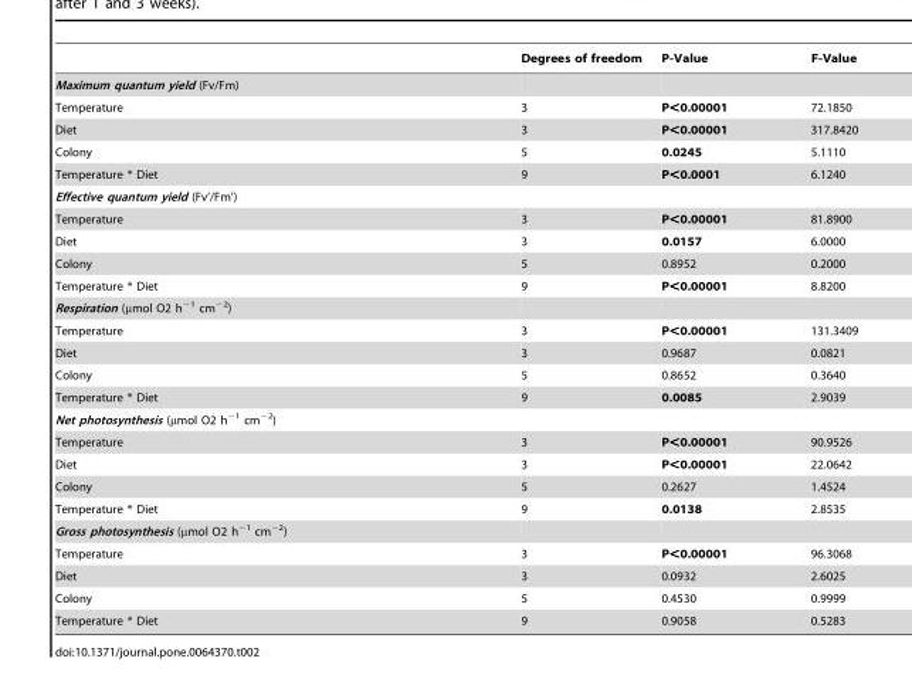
<table><thead><tr><td></td><td>Degrees of freedom</td><td>P-Value</td><td>F-Value</td></tr></thead><tbody><tr><td colspan="4">Maximum quantum yield (Fv/Fm)</td></tr><tr><td>Temperature</td><td>3</td><td>P&lt;0.00001</td><td>72.1850</td></tr><tr><td>Diet</td><td>3</td><td>P&lt;0.00001</td><td>317.8420</td></tr><tr><td>Colony</td><td>5</td><td>0.0245</td><td>5.1110</td></tr><tr><td>Temperature * Diet</td><td>9</td><td>P&lt;0.0001</td><td>6.1240</td></tr><tr><td colspan="4">Effective quantum yield (Fv’/Fm’)</td></tr><tr><td>Temperature</td><td>3</td><td>P&lt;0.00001</td><td>81.8900</td></tr><tr><td>Diet</td><td>3</td><td>0.0157</td><td>6.0000</td></tr><tr><td>Colony</td><td>5</td><td>0.8952</td><td>0.2000</td></tr><tr><td>Temperature * Diet</td><td>9</td><td>P&lt;0.00001</td><td>8.8200</td></tr><tr><td colspan="4">Respiration (μmol O2 h<sup>−1</sup> cm<sup>−2</sup>)</td></tr><tr><td>Temperature</td><td>3</td><td>P&lt;0.00001</td><td>131.3409</td></tr><tr><td>Diet</td><td>3</td><td>0.9687</td><td>0.0821</td></tr><tr><td>Colony</td><td>5</td><td>0.8652</td><td>0.3640</td></tr><tr><td>Temperature * Diet</td><td>9</td><td>0.0085</td><td>2.9039</td></tr><tr><td colspan="4">Net photosynthesis (μmol O2 h<sup>−1</sup> cm<sup>−2</sup>)</td></tr><tr><td>Temperature</td><td>3</td><td>P&lt;0.00001</td><td>90.9526</td></tr><tr><td>Diet</td><td>3</td><td>P&lt;0.00001</td><td>22.0642</td></tr><tr><td>Colony</td><td>5</td><td>0.2627</td><td>1.4524</td></tr><tr><td>Temperature * Diet</td><td>9</td><td>0.0138</td><td>2.8535</td></tr><tr><td colspan="4">Gross photosynthesis (μmol O2 h<sup>−1</sup> cm<sup>−2</sup>)</td></tr><tr><td>Temperature</td><td>3</td><td>P&lt;0.00001</td><td>96.3068</td></tr><tr><td>Diet</td><td>3</td><td>0.0932</td><td>2.6025</td></tr><tr><td>Colony</td><td>5</td><td>0.4530</td><td>0.9999</td></tr><tr><td>Temperature * Diet</td><td>9</td><td>0.9058</td><td>0.5283</td></tr></tbody></table>